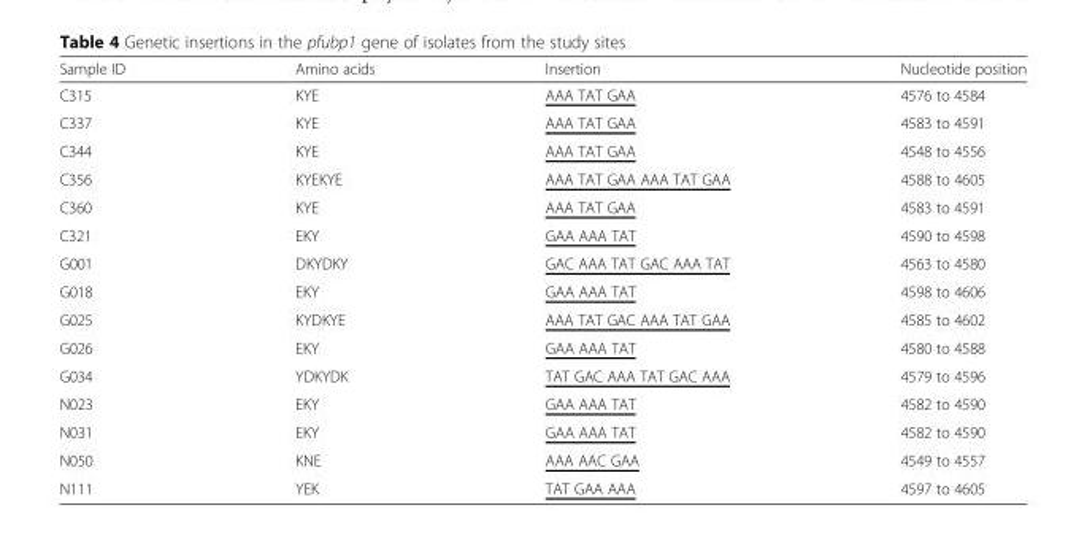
<table><thead><tr><td>Sample ID</td><td>Amino acids</td><td>Insertion</td><td>Nucleotide position</td></tr></thead><tbody><tr><td>C315</td><td>KYE</td><td>AAA TAT GAA</td><td>4576 to 4584</td></tr><tr><td>C337</td><td>KYE</td><td>AAA TAT GAA</td><td>4583 to 4591</td></tr><tr><td>C344</td><td>KYE</td><td>AAA TAT GAA</td><td>4548 to 4556</td></tr><tr><td>C356</td><td>KYEKYE</td><td>AAA TAT GAA AAA TAT GAA</td><td>4588 to 4605</td></tr><tr><td>C360</td><td>KYE</td><td>AAA TAT GAA</td><td>4583 to 4591</td></tr><tr><td>C321</td><td>EKY</td><td>GAA AAA TAT</td><td>4590 to 4598</td></tr><tr><td>G001</td><td>DKYDKY</td><td>GAC AAA TAT GAC AAA TAT</td><td>4563 to 4580</td></tr><tr><td>G018</td><td>EKY</td><td>GAA AAA TAT</td><td>4598 to 4606</td></tr><tr><td>G025</td><td>KYDKYE</td><td>AAA TAT GAC AAA TAT GAA</td><td>4585 to 4602</td></tr><tr><td>G026</td><td>EKY</td><td>GAA AAA TAT</td><td>4580 to 4588</td></tr><tr><td>G034</td><td>YDKYDK</td><td>TAT GAC AAA TAT GAC AAA</td><td>4579 to 4596</td></tr><tr><td>N023</td><td>EKY</td><td>GAA AAA TAT</td><td>4582 to 4590</td></tr><tr><td>N031</td><td>EKY</td><td>GAA AAA TAT</td><td>4582 to 4590</td></tr><tr><td>N050</td><td>KNE</td><td>AAA AAC GAA</td><td>4549 to 4557</td></tr><tr><td>N111</td><td>YEK</td><td>TAT GAA AAA</td><td>4597 to 4605</td></tr></tbody></table>